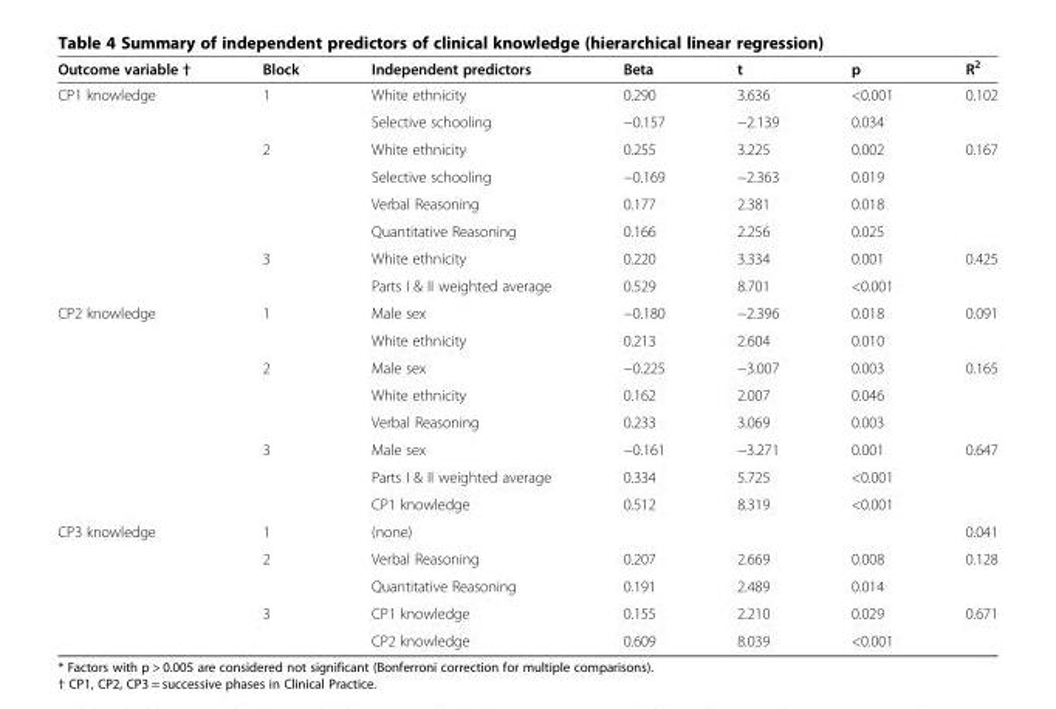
<table><thead><tr><td>Outcome variable †</td><td>Block</td><td>Independent predictors</td><td>Beta</td><td>t</td><td>p</td><td>R<sup>2</sup></td></tr></thead><tbody><tr><td rowspan="8">CP1 knowledge</td><td>1</td><td>White ethnicity</td><td>0.290</td><td>3.636</td><td>&lt;0.001</td><td>0.102</td></tr><tr><td></td><td>Selective schooling</td><td>−0.157</td><td>−2.139</td><td>0.034</td><td></td></tr><tr><td>2</td><td>White ethnicity</td><td>0.255</td><td>3.225</td><td>0.002</td><td>0.167</td></tr><tr><td></td><td>Selective schooling</td><td>−0.169</td><td>−2.363</td><td>0.019</td><td></td></tr><tr><td></td><td>Verbal Reasoning</td><td>0.177</td><td>2.381</td><td>0.018</td><td></td></tr><tr><td></td><td>Quantitative Reasoning</td><td>0.166</td><td>2.256</td><td>0.025</td><td></td></tr><tr><td>3</td><td>White ethnicity</td><td>0.220</td><td>3.334</td><td>0.001</td><td>0.425</td></tr><tr><td></td><td>Parts I &amp; II weighted average</td><td>0.529</td><td>8.701</td><td>&lt;0.001</td><td></td></tr><tr><td rowspan="8">CP2 knowledge</td><td>1</td><td>Male sex</td><td>−0.180</td><td>−2.396</td><td>0.018</td><td>0.091</td></tr><tr><td></td><td>White ethnicity</td><td>0.213</td><td>2.604</td><td>0.010</td><td></td></tr><tr><td>2</td><td>Male sex</td><td>−0.225</td><td>−3.007</td><td>0.003</td><td>0.165</td></tr><tr><td></td><td>White ethnicity</td><td>0.162</td><td>2.007</td><td>0.046</td><td></td></tr><tr><td></td><td>Verbal Reasoning</td><td>0.233</td><td>3.069</td><td>0.003</td><td></td></tr><tr><td>3</td><td>Male sex</td><td>−0.161</td><td>−3.271</td><td>0.001</td><td>0.647</td></tr><tr><td></td><td>Parts I &amp; II weighted average</td><td>0.334</td><td>5.725</td><td>&lt;0.001</td><td></td></tr><tr><td></td><td>CP1 knowledge</td><td>0.512</td><td>8.319</td><td>&lt;0.001</td><td></td></tr><tr><td rowspan="5">CP3 knowledge</td><td>1</td><td>(none)</td><td></td><td></td><td></td><td>0.041</td></tr><tr><td>2</td><td>Verbal Reasoning</td><td>0.207</td><td>2.669</td><td>0.008</td><td>0.128</td></tr><tr><td></td><td>Quantitative Reasoning</td><td>0.191</td><td>2.489</td><td>0.014</td><td></td></tr><tr><td>3</td><td>CP1 knowledge</td><td>0.155</td><td>2.210</td><td>0.029</td><td>0.671</td></tr><tr><td></td><td>CP2 knowledge</td><td>0.609</td><td>8.039</td><td>&lt;0.001</td><td></td></tr></tbody></table>